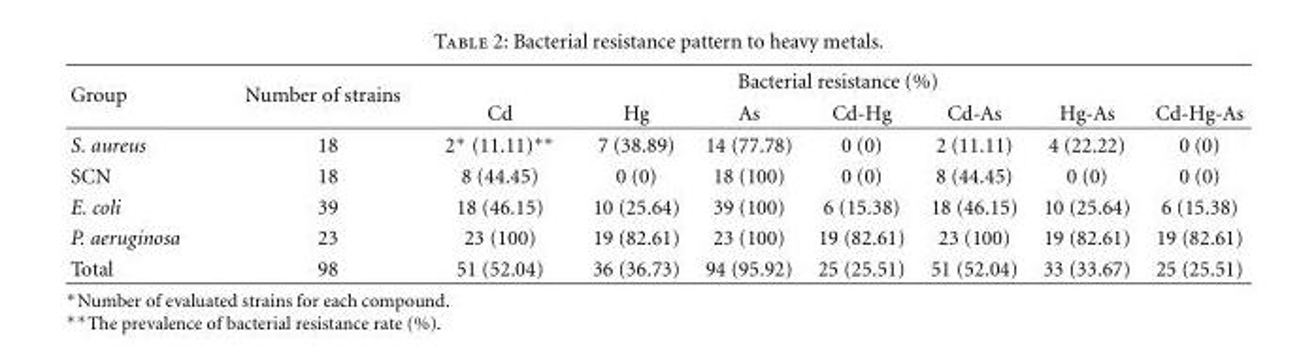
<table><thead><tr><td rowspan="2">Group</td><td rowspan="2">Number of strains</td><td colspan="7">Bacterial resistance (%)</td></tr><tr><td>Cd</td><td>Hg</td><td>As</td><td>Cd-Hg</td><td>Cd-As</td><td>Hg-As</td><td>Cd-Hg-As</td></tr></thead><tbody><tr><td>S. aureus</td><td>18</td><td>2∗ (11.11)∗∗</td><td>7 (38.89)</td><td>14 (77.78)</td><td>0 (0)</td><td>2 (11.11)</td><td>4 (22.22)</td><td>0 (0)</td></tr><tr><td>SCN</td><td>18</td><td>8 (44.45)</td><td>0 (0)</td><td>18 (100)</td><td>0 (0)</td><td>8 (44.45)</td><td>0 (0)</td><td>0 (0)</td></tr><tr><td>E. coli</td><td>39</td><td>18 (46.15)</td><td>10 (25.64)</td><td>39 (100)</td><td>6 (15.38)</td><td>18 (46.15)</td><td>10 (25.64)</td><td>6 (15.38)</td></tr><tr><td>P. aeruginosa</td><td>23</td><td>23 (100)</td><td>19 (82.61)</td><td>23 (100)</td><td>19 (82.61)</td><td>23 (100)</td><td>19 (82.61)</td><td>19 (82.61)</td></tr><tr><td>Total</td><td>98</td><td>51 (52.04)</td><td>36 (36.73)</td><td>94 (95.92)</td><td>25 (25.51)</td><td>51 (52.04)</td><td>33 (33.67)</td><td>25 (25.51)</td></tr></tbody></table>